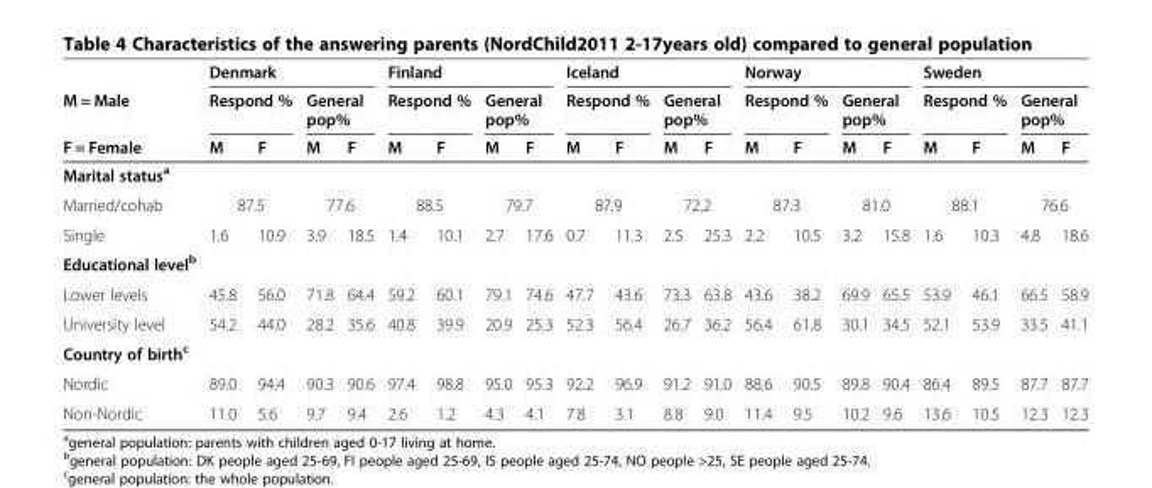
<table><thead><tr><td rowspan="3">M = Male F = Female</td><td colspan="4">Denmark</td><td colspan="4">Finland</td><td colspan="4">Iceland</td><td colspan="4">Norway</td><td colspan="4">Sweden</td></tr><tr><td colspan="2">Respond %</td><td colspan="2">General pop%</td><td colspan="2">Respond %</td><td colspan="2">General pop%</td><td colspan="2">Respond %</td><td colspan="2">General pop%</td><td colspan="2">Respond %</td><td colspan="2">General pop%</td><td colspan="2">Respond %</td><td colspan="2">General pop%</td></tr><tr><td>M</td><td>F</td><td>M</td><td>F</td><td>M</td><td>F</td><td>M</td><td>F</td><td>M</td><td>F</td><td>M</td><td>F</td><td>M</td><td>F</td><td>M</td><td>F</td><td>M</td><td>F</td><td>M</td><td>F</td></tr></thead><tbody><tr><td colspan="21">Marital status<sup>a</sup></td></tr><tr><td>Married/cohab</td><td colspan="2">87.5</td><td colspan="2">77.6</td><td colspan="2">88.5</td><td colspan="2">79.7</td><td colspan="2">87.9</td><td colspan="2">72.2</td><td colspan="2">87.3</td><td colspan="2">81.0</td><td colspan="2">88.1</td><td colspan="2">76.6</td></tr><tr><td>Single</td><td>1.6</td><td>10.9</td><td>3.9</td><td>18.5</td><td>1.4</td><td>10.1</td><td>2.7</td><td>17.6</td><td>0.7</td><td>11.3</td><td>2.5</td><td>25.3</td><td>2.2</td><td>10.5</td><td>3.2</td><td>15.8</td><td>1.6</td><td>10.3</td><td>4.8</td><td>18.6</td></tr><tr><td colspan="21">Educational level<sup>b</sup></td></tr><tr><td>Lower levels</td><td>45.8</td><td>56.0</td><td>71.8</td><td>64.4</td><td>59.2</td><td>60.1</td><td>79.1</td><td>74.6</td><td>47.7</td><td>43.6</td><td>73.3</td><td>63.8</td><td>43.6</td><td>38.2</td><td>69.9</td><td>65.5</td><td>53.9</td><td>46.1</td><td>66.5</td><td>58.9</td></tr><tr><td>University level</td><td>54.2</td><td>44.0</td><td>28.2</td><td>35.6</td><td>40.8</td><td>39.9</td><td>20.9</td><td>25.3</td><td>52.3</td><td>56.4</td><td>26.7</td><td>36.2</td><td>56.4</td><td>61.8</td><td>30.1</td><td>34.5</td><td>52.1</td><td>53.9</td><td>33.5</td><td>41.1</td></tr><tr><td colspan="21">Country of birth<sup>c</sup></td></tr><tr><td>Nordic</td><td>89.0</td><td>94.4</td><td>90.3</td><td>90.6</td><td>97.4</td><td>98.8</td><td>95.0</td><td>95.3</td><td>92.2</td><td>96.9</td><td>91.2</td><td>91.0</td><td>88.6</td><td>90.5</td><td>89.8</td><td>90.4</td><td>86.4</td><td>89.5</td><td>87.7</td><td>87.7</td></tr><tr><td>Non-Nordic</td><td>11.0</td><td>5.6</td><td>9.7</td><td>9.4</td><td>2.6</td><td>1.2</td><td>4.3</td><td>4.1</td><td>7.8</td><td>3.1</td><td>8.8</td><td>9.0</td><td>11.4</td><td>9.5</td><td>10.2</td><td>9.6</td><td>13.6</td><td>10.5</td><td>12.3</td><td>12.3</td></tr></tbody></table>